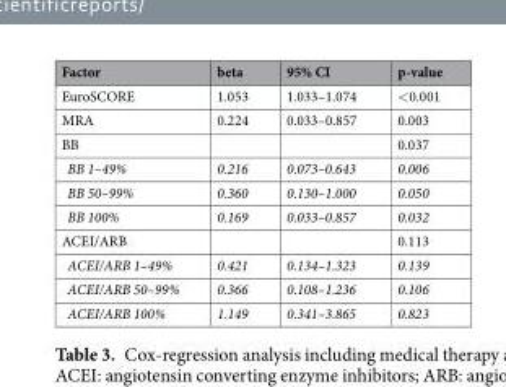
<table><thead><tr><td>Factor</td><td>beta</td><td>95% CI</td><td>p-value</td></tr></thead><tbody><tr><td>EuroSCORE</td><td>1.053</td><td>1.033–1.074</td><td>&lt;0.001</td></tr><tr><td>MRA</td><td>0.224</td><td>0.033–0.857</td><td>0.003</td></tr><tr><td>BB</td><td></td><td></td><td>0.037</td></tr><tr><td>BB 1–49%</td><td>0.216</td><td>0.073–0.643</td><td>0.006</td></tr><tr><td>BB 50–99%</td><td>0.360</td><td>0.130–1.000</td><td>0.050</td></tr><tr><td>BB 100%</td><td>0.169</td><td>0.033–0.857</td><td>0.032</td></tr><tr><td>ACEI/ARB</td><td></td><td></td><td>0.113</td></tr><tr><td>ACEI/ARB 1–49%</td><td>0.421</td><td>0.134–1.323</td><td>0.139</td></tr><tr><td>ACEI/ARB 50–99%</td><td>0.366</td><td>0.108–1.236</td><td>0.106</td></tr><tr><td>ACEI/ARB 100%</td><td>1.149</td><td>0.341–3.865</td><td>0.823</td></tr></tbody></table>